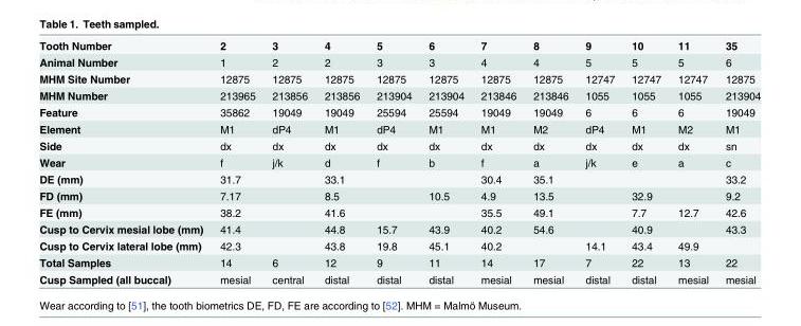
<table><tbody><tr><td>Tooth Number</td><td>2</td><td>3</td><td>4</td><td>5</td><td>6</td><td>7</td><td>8</td><td>9</td><td>10</td><td>11</td><td>35</td></tr><tr><td>Animal Number</td><td>1</td><td>2</td><td>2</td><td>3</td><td>3</td><td>4</td><td>4</td><td>5</td><td>5</td><td>5</td><td>6</td></tr><tr><td>MHM Site Number</td><td>12875</td><td>12875</td><td>12875</td><td>12875</td><td>12875</td><td>12875</td><td>12875</td><td>12747</td><td>12747</td><td>12747</td><td>12875</td></tr><tr><td>MHM Number</td><td>213965</td><td>213856</td><td>213856</td><td>213904</td><td>213904</td><td>213846</td><td>213846</td><td>1055</td><td>1055</td><td>1055</td><td>213904</td></tr><tr><td>Feature</td><td>35862</td><td>19049</td><td>19049</td><td>25594</td><td>25594</td><td>19049</td><td>19049</td><td>6</td><td>6</td><td>6</td><td>19049</td></tr><tr><td>Element</td><td>M1</td><td>dP4</td><td>M1</td><td>dP4</td><td>M1</td><td>M1</td><td>M2</td><td>dP4</td><td>M1</td><td>M2</td><td>M1</td></tr><tr><td>Side</td><td>dx</td><td>dx</td><td>dx</td><td>dx</td><td>dx</td><td>dx</td><td>dx</td><td>dx</td><td>dx</td><td>dx</td><td>sn</td></tr><tr><td>Wear</td><td>f</td><td>j/k</td><td>d</td><td>f</td><td>b</td><td>f</td><td>a</td><td>j/k</td><td>e</td><td>a</td><td>c</td></tr><tr><td>DE (mm)</td><td>31.7</td><td></td><td>33.1</td><td></td><td></td><td>30.4</td><td>35.1</td><td></td><td></td><td></td><td>33.2</td></tr><tr><td>FD (mm)</td><td>7.17</td><td></td><td>8.5</td><td></td><td>10.5</td><td>4.9</td><td>13.5</td><td></td><td>32.9</td><td></td><td>9.2</td></tr><tr><td>FE (mm)</td><td>38.2</td><td></td><td>41.6</td><td></td><td></td><td>35.5</td><td>49.1</td><td></td><td>7.7</td><td>12.7</td><td>42.6</td></tr><tr><td>Cusp to Cervix mesial lobe (mm)</td><td>41.4</td><td></td><td>44.8</td><td>15.7</td><td>43.9</td><td>40.2</td><td>54.6</td><td></td><td>40.9</td><td></td><td>43.3</td></tr><tr><td>Cusp to Cervix lateral lobe (mm)</td><td>42.3</td><td></td><td>43.8</td><td>19.8</td><td>45.1</td><td>40.2</td><td></td><td>14.1</td><td>43.4</td><td>49.9</td><td></td></tr><tr><td>Total Samples</td><td>14</td><td>6</td><td>12</td><td>9</td><td>11</td><td>14</td><td>17</td><td>7</td><td>22</td><td>13</td><td>22</td></tr><tr><td>Cusp Sampled (all buccal)</td><td>mesial</td><td>central</td><td>distal</td><td>distal</td><td>distal</td><td>mesial</td><td>mesial</td><td>distal</td><td>distal</td><td>mesial</td><td>mesial</td></tr></tbody></table>